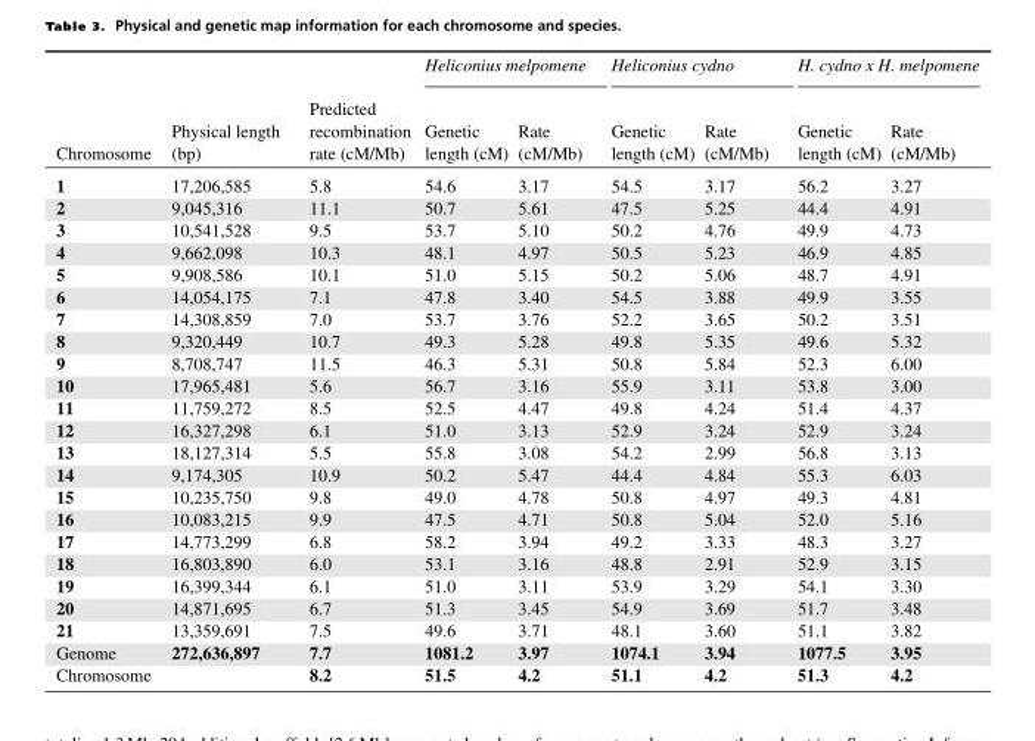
<table><thead><tr><td rowspan="2">Chromosome</td><td rowspan="2">Physical length (bp)</td><td rowspan="2">Predicted recombination rate (cM/Mb)</td><td colspan="2">Heliconius melpomene</td><td colspan="2">Heliconius cydno</td><td colspan="2">H. cydno x H. melpomene</td></tr><tr><td>Genetic length (cM)</td><td>Rate (cM/Mb)</td><td>Genetic length (cM)</td><td>Rate (cM/Mb)</td><td>Genetic length (cM)</td><td>Rate (cM/Mb)</td></tr></thead><tbody><tr><td>1</td><td>17,206,585</td><td>5.8</td><td>54.6</td><td>3.17</td><td>54.5</td><td>3.17</td><td>56.2</td><td>3.27</td></tr><tr><td>2</td><td>9,045,316</td><td>11.1</td><td>50.7</td><td>5.61</td><td>47.5</td><td>5.25</td><td>44.4</td><td>4.91</td></tr><tr><td>3</td><td>10,541,528</td><td>9.5</td><td>53.7</td><td>5.10</td><td>50.2</td><td>4.76</td><td>49.9</td><td>4.73</td></tr><tr><td>4</td><td>9,662,098</td><td>10.3</td><td>48.1</td><td>4.97</td><td>50.5</td><td>5.23</td><td>46.9</td><td>4.85</td></tr><tr><td>5</td><td>9,908,586</td><td>10.1</td><td>51.0</td><td>5.15</td><td>50.2</td><td>5.06</td><td>48.7</td><td>4.91</td></tr><tr><td>6</td><td>14,054,175</td><td>7.1</td><td>47.8</td><td>3.40</td><td>54.5</td><td>3.88</td><td>49.9</td><td>3.55</td></tr><tr><td>7</td><td>14,308,859</td><td>7.0</td><td>53.7</td><td>3.76</td><td>52.2</td><td>3.65</td><td>50.2</td><td>3.51</td></tr><tr><td>8</td><td>9,320,449</td><td>10.7</td><td>49.3</td><td>5.28</td><td>49.8</td><td>5.35</td><td>49.6</td><td>5.32</td></tr><tr><td>9</td><td>8,708,747</td><td>11.5</td><td>46.3</td><td>5.31</td><td>50.8</td><td>5.84</td><td>52.3</td><td>6.00</td></tr><tr><td>10</td><td>17,965,481</td><td>5.6</td><td>56.7</td><td>3.16</td><td>55.9</td><td>3.11</td><td>53.8</td><td>3.00</td></tr><tr><td>11</td><td>11,759,272</td><td>8.5</td><td>52.5</td><td>4.47</td><td>49.8</td><td>4.24</td><td>51.4</td><td>4.37</td></tr><tr><td>12</td><td>16,327,298</td><td>6.1</td><td>51.0</td><td>3.13</td><td>52.9</td><td>3.24</td><td>52.9</td><td>3.24</td></tr><tr><td>13</td><td>18,127,314</td><td>5.5</td><td>55.8</td><td>3.08</td><td>54.2</td><td>2.99</td><td>56.8</td><td>3.13</td></tr><tr><td>14</td><td>9,174,305</td><td>10.9</td><td>50.2</td><td>5.47</td><td>44.4</td><td>4.84</td><td>55.3</td><td>6.03</td></tr><tr><td>15</td><td>10,235,750</td><td>9.8</td><td>49.0</td><td>4.78</td><td>50.8</td><td>4.97</td><td>49.3</td><td>4.81</td></tr><tr><td>16</td><td>10,083,215</td><td>9.9</td><td>47.5</td><td>4.71</td><td>50.8</td><td>5.04</td><td>52.0</td><td>5.16</td></tr><tr><td>17</td><td>14,773,299</td><td>6.8</td><td>58.2</td><td>3.94</td><td>49.2</td><td>3.33</td><td>48.3</td><td>3.27</td></tr><tr><td>18</td><td>16,803,890</td><td>6.0</td><td>53.1</td><td>3.16</td><td>48.8</td><td>2.91</td><td>52.9</td><td>3.15</td></tr><tr><td>19</td><td>16,399,344</td><td>6.1</td><td>51.0</td><td>3.11</td><td>53.9</td><td>3.29</td><td>54.1</td><td>3.30</td></tr><tr><td>20</td><td>14,871,695</td><td>6.7</td><td>51.3</td><td>3.45</td><td>54.9</td><td>3.69</td><td>51.7</td><td>3.48</td></tr><tr><td>21</td><td>13,359,691</td><td>7.5</td><td>49.6</td><td>3.71</td><td>48.1</td><td>3.60</td><td>51.1</td><td>3.82</td></tr><tr><td>Genome</td><td>272,636,897</td><td>7.7</td><td>1081.2</td><td>3.97</td><td>1074.1</td><td>3.94</td><td>1077.5</td><td>3.95</td></tr><tr><td>Chromosome</td><td></td><td>8.2</td><td>51.5</td><td>4.2</td><td>51.1</td><td>4.2</td><td>51.3</td><td>4.2</td></tr></tbody></table>